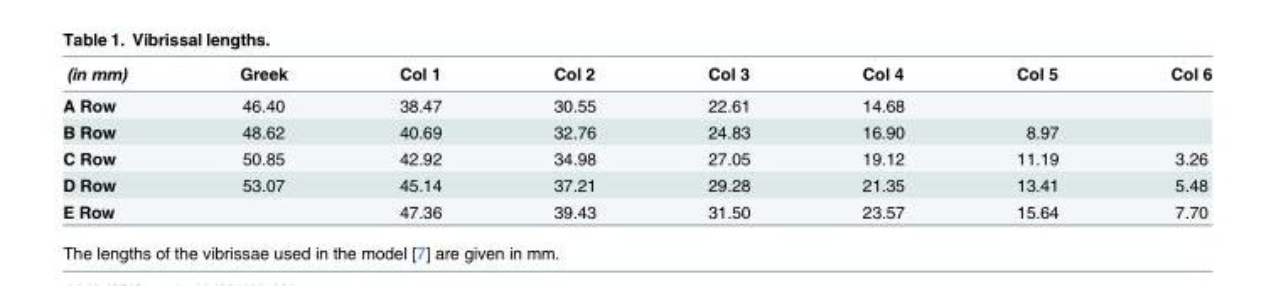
<table><thead><tr><td>(in mm)</td><td>Greek</td><td>Col 1</td><td>Col 2</td><td>Col 3</td><td>Col 4</td><td>Col 5</td><td>Col 6</td></tr></thead><tbody><tr><td>A Row</td><td>46.40</td><td>38.47</td><td>30.55</td><td>22.61</td><td>14.68</td><td></td><td></td></tr><tr><td>B Row</td><td>48.62</td><td>40.69</td><td>32.76</td><td>24.83</td><td>16.90</td><td>8.97</td><td></td></tr><tr><td>C Row</td><td>50.85</td><td>42.92</td><td>34.98</td><td>27.05</td><td>19.12</td><td>11.19</td><td>3.26</td></tr><tr><td>D Row</td><td>53.07</td><td>45.14</td><td>37.21</td><td>29.28</td><td>21.35</td><td>13.41</td><td>5.48</td></tr><tr><td>E Row</td><td></td><td>47.36</td><td>39.43</td><td>31.50</td><td>23.57</td><td>15.64</td><td>7.70</td></tr></tbody></table>